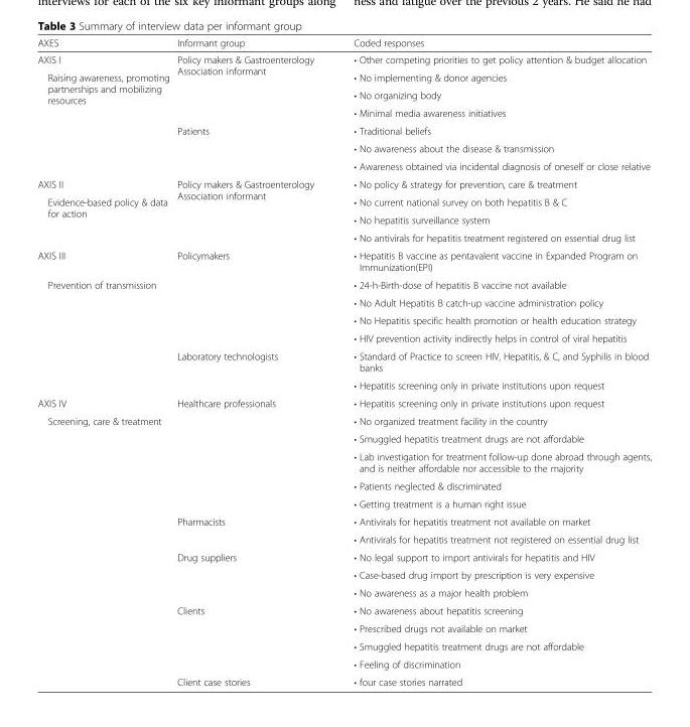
<table><thead><tr><td>AXES</td><td>Informant group</td><td>Coded responses</td></tr></thead><tbody><tr><td>AXIS I</td><td rowspan="4">Policy makers &amp; Gastroenterology Association informant</td><td>• Other competing priorities to get policy attention &amp; budget allocation</td></tr><tr><td rowspan="6">Raising awareness, promoting partnerships and mobilizing resources</td><td>• No implementing &amp; donor agencies</td></tr><tr><td>• No organizing body</td></tr><tr><td>• Minimal media awareness initiatives</td></tr><tr><td rowspan="3">Patients</td><td>• Traditional beliefs</td></tr><tr><td>• No awareness about the disease &amp; transmission</td></tr><tr><td>• Awareness obtained via incidental diagnosis of oneself or close relative</td></tr><tr><td>AXIS II</td><td rowspan="4">Policy makers &amp; Gastroenterology Association informant</td><td>• No policy &amp; strategy for prevention, care &amp; treatment</td></tr><tr><td rowspan="3">Evidence-based policy &amp; data for action</td><td>• No current national survey on both hepatitis B &amp; C</td></tr><tr><td>• No hepatitis surveillance system</td></tr><tr><td>• No antivirals for hepatitis treatment registered on essential drug list</td></tr><tr><td>AXIS III</td><td rowspan="5">Policymakers</td><td>• Hepatitis B vaccine as pentavalent vaccine in Expanded Program on Immunization(EPI)</td></tr><tr><td rowspan="6">Prevention of transmission</td><td>• 24-h-Birth-dose of hepatitis B vaccine not available</td></tr><tr><td>• No Adult Hepatitis B catch-up vaccine administration policy</td></tr><tr><td>• No Hepatitis specific health promotion or health education strategy</td></tr><tr><td>• HIV prevention activity indirectly helps in control of viral hepatitis</td></tr><tr><td rowspan="2">Laboratory technologists</td><td>• Standard of Practice to screen HIV, Hepatitis, &amp; C, and Syphilis in blood banks</td></tr><tr><td>• Hepatitis screening only in private institutions upon request</td></tr><tr><td>AXIS IV</td><td rowspan="6">Healthcare professionals</td><td>• Hepatitis screening only in private institutions upon request</td></tr><tr><td rowspan="15">Screening, care &amp; treatment</td><td>• No organized treatment facility in the country</td></tr><tr><td>• Smuggled hepatitis treatment drugs are not affordable</td></tr><tr><td>• Lab investigation for treatment follow-up done abroad through agents, and is neither affordable nor accessible to the majority</td></tr><tr><td>• Patients neglected &amp; discriminated</td></tr><tr><td>• Getting treatment is a human right issue</td></tr><tr><td rowspan="2">Pharmacists</td><td>• Antivirals for hepatitis treatment not available on market</td></tr><tr><td>• Antivirals for hepatitis treatment not registered on essential drug list</td></tr><tr><td rowspan="3">Drug suppliers</td><td>• No legal support to import antivirals for hepatitis and HIV</td></tr><tr><td>• Case-based drug import by prescription is very expensive</td></tr><tr><td>• No awareness as a major health problem</td></tr><tr><td rowspan="4">Clients</td><td>• No awareness about hepatitis screening</td></tr><tr><td>• Prescribed drugs not available on market</td></tr><tr><td>• Smuggled hepatitis treatment drugs are not affordable</td></tr><tr><td>• Feeling of discrimination</td></tr><tr><td>Client case stories</td><td>• four case stories narrated</td></tr></tbody></table>